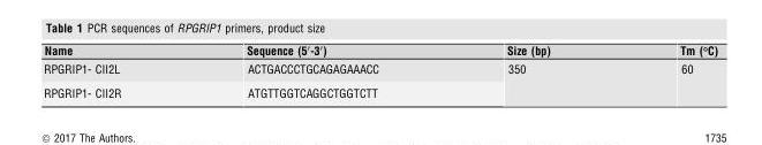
<table><thead><tr><td>Name</td><td>Sequence (5′-3′)</td><td>Size (bp)</td><td>Tm (°C)</td></tr></thead><tbody><tr><td>RPGRIP1- CII2L</td><td>ACTGACCCTGCAGAGAAACC</td><td rowspan="2">350</td><td rowspan="2">60</td></tr><tr><td>RPGRIP1- CII2R</td><td>ATGTTGGTCAGGCTGGTCTT</td></tr></tbody></table>